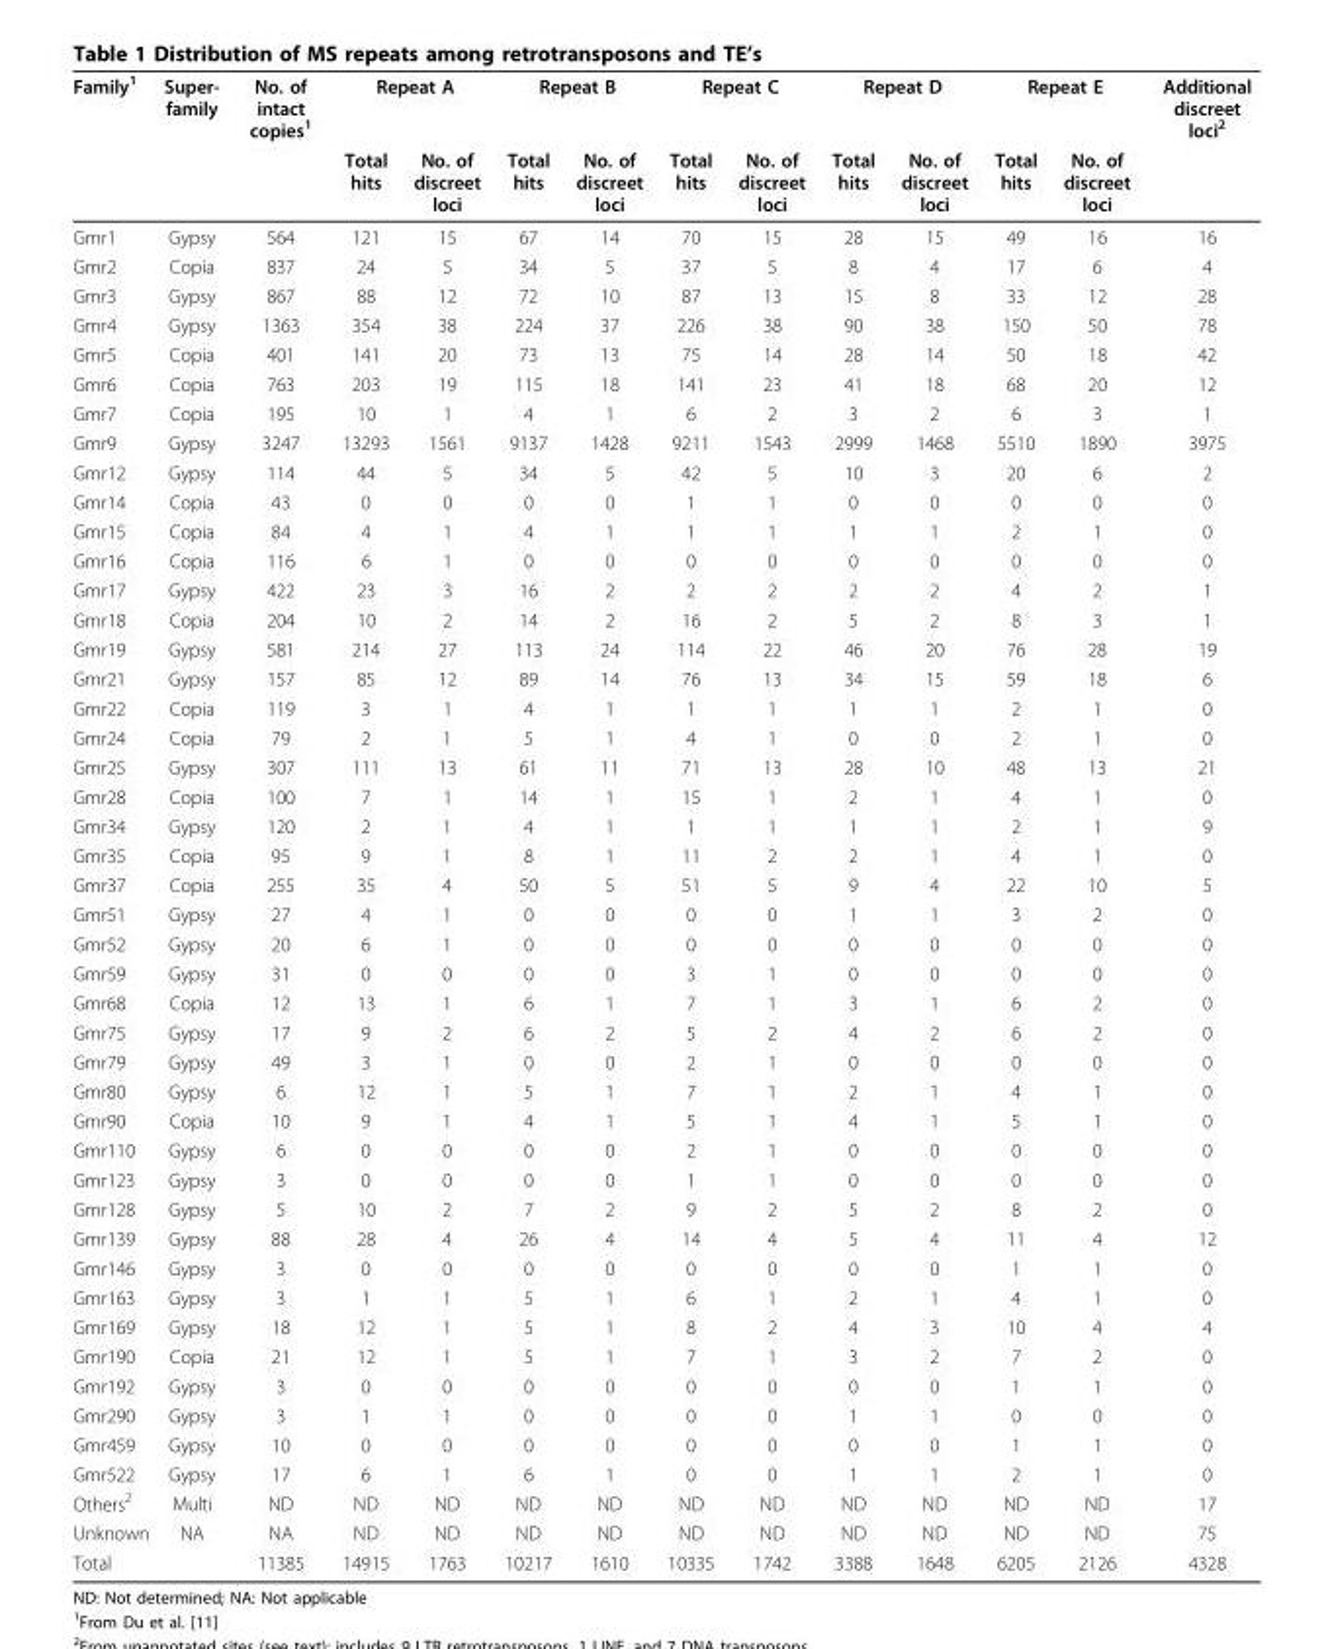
<table><thead><tr><td rowspan="2">Family<sup>1</sup></td><td rowspan="2">Super- family</td><td rowspan="2">No. of intact copies<sup>1</sup></td><td colspan="2">Repeat A</td><td colspan="2">Repeat B</td><td colspan="2">Repeat C</td><td colspan="2">Repeat D</td><td colspan="2">Repeat E</td><td rowspan="2">Additional discreet loci<sup>2</sup></td></tr><tr><td>Total hits</td><td>No. of discreet loci</td><td>Total hits</td><td>No. of discreet loci</td><td>Total hits</td><td>No. of discreet loci</td><td>Total hits</td><td>No. of discreet loci</td><td>Total hits</td><td>No. of discreet loci</td></tr></thead><tbody><tr><td>Gmr1</td><td>Gypsy</td><td>564</td><td>121</td><td>15</td><td>67</td><td>14</td><td>70</td><td>15</td><td>28</td><td>15</td><td>49</td><td>16</td><td>16</td></tr><tr><td>Gmr2</td><td>Copia</td><td>837</td><td>24</td><td>5</td><td>34</td><td>5</td><td>37</td><td>5</td><td>8</td><td>4</td><td>17</td><td>6</td><td>4</td></tr><tr><td>Gmr3</td><td>Gypsy</td><td>867</td><td>88</td><td>12</td><td>72</td><td>10</td><td>87</td><td>13</td><td>15</td><td>8</td><td>33</td><td>12</td><td>28</td></tr><tr><td>Gmr4</td><td>Gypsy</td><td>1363</td><td>354</td><td>38</td><td>224</td><td>37</td><td>226</td><td>38</td><td>90</td><td>38</td><td>150</td><td>50</td><td>78</td></tr><tr><td>Gmr5</td><td>Copia</td><td>401</td><td>141</td><td>20</td><td>73</td><td>13</td><td>75</td><td>14</td><td>28</td><td>14</td><td>50</td><td>18</td><td>42</td></tr><tr><td>Gmr6</td><td>Copia</td><td>763</td><td>203</td><td>19</td><td>115</td><td>18</td><td>141</td><td>23</td><td>41</td><td>18</td><td>68</td><td>20</td><td>12</td></tr><tr><td>Gmr7</td><td>Copia</td><td>195</td><td>10</td><td>1</td><td>4</td><td>1</td><td>6</td><td>2</td><td>3</td><td>2</td><td>6</td><td>3</td><td>1</td></tr><tr><td>Gmr9</td><td>Gypsy</td><td>3247</td><td>13293</td><td>1561</td><td>9137</td><td>1428</td><td>9211</td><td>1543</td><td>2999</td><td>1468</td><td>5510</td><td>1890</td><td>3975</td></tr><tr><td>Gmr12</td><td>Gypsy</td><td>114</td><td>44</td><td>5</td><td>34</td><td>5</td><td>42</td><td>5</td><td>10</td><td>3</td><td>20</td><td>6</td><td>2</td></tr><tr><td>Gmr14</td><td>Copia</td><td>43</td><td>0</td><td>0</td><td>0</td><td>0</td><td>1</td><td>1</td><td>0</td><td>0</td><td>0</td><td>0</td><td>0</td></tr><tr><td>Gmr15</td><td>Copia</td><td>84</td><td>4</td><td>1</td><td>4</td><td>1</td><td>1</td><td>1</td><td>1</td><td>1</td><td>2</td><td>1</td><td>0</td></tr><tr><td>Gmr16</td><td>Copia</td><td>116</td><td>6</td><td>1</td><td>0</td><td>0</td><td>0</td><td>0</td><td>0</td><td>0</td><td>0</td><td>0</td><td>0</td></tr><tr><td>Gmr17</td><td>Gypsy</td><td>422</td><td>23</td><td>3</td><td>16</td><td>2</td><td>2</td><td>2</td><td>2</td><td>2</td><td>4</td><td>2</td><td>1</td></tr><tr><td>Gmr18</td><td>Copia</td><td>204</td><td>10</td><td>2</td><td>14</td><td>2</td><td>16</td><td>2</td><td>5</td><td>2</td><td>8</td><td>3</td><td>1</td></tr><tr><td>Gmr19</td><td>Gypsy</td><td>581</td><td>214</td><td>27</td><td>113</td><td>24</td><td>114</td><td>22</td><td>46</td><td>20</td><td>76</td><td>28</td><td>19</td></tr><tr><td>Gmr21</td><td>Gypsy</td><td>157</td><td>85</td><td>12</td><td>89</td><td>14</td><td>76</td><td>13</td><td>34</td><td>15</td><td>59</td><td>18</td><td>6</td></tr><tr><td>Gmr22</td><td>Copia</td><td>119</td><td>3</td><td>1</td><td>4</td><td>1</td><td>1</td><td>1</td><td>1</td><td>1</td><td>2</td><td>1</td><td>0</td></tr><tr><td>Gmr24</td><td>Copia</td><td>79</td><td>2</td><td>1</td><td>5</td><td>1</td><td>4</td><td>1</td><td>0</td><td>0</td><td>2</td><td>1</td><td>0</td></tr><tr><td>Gmr25</td><td>Gypsy</td><td>307</td><td>111</td><td>13</td><td>61</td><td>11</td><td>71</td><td>13</td><td>28</td><td>10</td><td>48</td><td>13</td><td>21</td></tr><tr><td>Gmr28</td><td>Copia</td><td>100</td><td>7</td><td>1</td><td>14</td><td>1</td><td>15</td><td>1</td><td>2</td><td>1</td><td>4</td><td>1</td><td>0</td></tr><tr><td>Gmr34</td><td>Gypsy</td><td>120</td><td>2</td><td>1</td><td>4</td><td>1</td><td>1</td><td>1</td><td>1</td><td>1</td><td>2</td><td>1</td><td>9</td></tr><tr><td>Gmr35</td><td>Copia</td><td>95</td><td>9</td><td>1</td><td>8</td><td>1</td><td>11</td><td>2</td><td>2</td><td>1</td><td>4</td><td>1</td><td>0</td></tr><tr><td>Gmr37</td><td>Copia</td><td>255</td><td>35</td><td>4</td><td>50</td><td>5</td><td>51</td><td>5</td><td>9</td><td>4</td><td>22</td><td>10</td><td>5</td></tr><tr><td>Gmr51</td><td>Gypsy</td><td>27</td><td>4</td><td>1</td><td>0</td><td>0</td><td>0</td><td>0</td><td>1</td><td>1</td><td>3</td><td>2</td><td>0</td></tr><tr><td>Gmr52</td><td>Gypsy</td><td>20</td><td>6</td><td>1</td><td>0</td><td>0</td><td>0</td><td>0</td><td>0</td><td>0</td><td>0</td><td>0</td><td>0</td></tr><tr><td>Gmr59</td><td>Gypsy</td><td>31</td><td>0</td><td>0</td><td>0</td><td>0</td><td>3</td><td>1</td><td>0</td><td>0</td><td>0</td><td>0</td><td>0</td></tr><tr><td>Gmr68</td><td>Copia</td><td>12</td><td>13</td><td>1</td><td>6</td><td>1</td><td>7</td><td>1</td><td>3</td><td>1</td><td>6</td><td>2</td><td>0</td></tr><tr><td>Gmr75</td><td>Gypsy</td><td>17</td><td>9</td><td>2</td><td>6</td><td>2</td><td>5</td><td>2</td><td>4</td><td>2</td><td>6</td><td>2</td><td>0</td></tr><tr><td>Gmr79</td><td>Gypsy</td><td>49</td><td>3</td><td>1</td><td>0</td><td>0</td><td>2</td><td>1</td><td>0</td><td>0</td><td>0</td><td>0</td><td>0</td></tr><tr><td>Gmr80</td><td>Gypsy</td><td>6</td><td>12</td><td>1</td><td>5</td><td>1</td><td>7</td><td>1</td><td>2</td><td>1</td><td>4</td><td>1</td><td>0</td></tr><tr><td>Gmr90</td><td>Copia</td><td>10</td><td>9</td><td>1</td><td>4</td><td>1</td><td>5</td><td>1</td><td>4</td><td>1</td><td>5</td><td>1</td><td>0</td></tr><tr><td>Gmr110</td><td>Gypsy</td><td>6</td><td>0</td><td>0</td><td>0</td><td>0</td><td>2</td><td>1</td><td>0</td><td>0</td><td>0</td><td>0</td><td>0</td></tr><tr><td>Gmr123</td><td>Gypsy</td><td>3</td><td>0</td><td>0</td><td>0</td><td>0</td><td>1</td><td>1</td><td>0</td><td>0</td><td>0</td><td>0</td><td>0</td></tr><tr><td>Gmr128</td><td>Gypsy</td><td>5</td><td>10</td><td>2</td><td>7</td><td>2</td><td>9</td><td>2</td><td>5</td><td>2</td><td>8</td><td>2</td><td>0</td></tr><tr><td>Gmr139</td><td>Gypsy</td><td>88</td><td>28</td><td>4</td><td>26</td><td>4</td><td>14</td><td>4</td><td>5</td><td>4</td><td>11</td><td>4</td><td>12</td></tr><tr><td>Gmr146</td><td>Gypsy</td><td>3</td><td>0</td><td>0</td><td>0</td><td>0</td><td>0</td><td>0</td><td>0</td><td>0</td><td>1</td><td>1</td><td>0</td></tr><tr><td>Gmr163</td><td>Gypsy</td><td>3</td><td>1</td><td>1</td><td>5</td><td>1</td><td>6</td><td>1</td><td>2</td><td>1</td><td>4</td><td>1</td><td>0</td></tr><tr><td>Gmr169</td><td>Gypsy</td><td>18</td><td>12</td><td>1</td><td>5</td><td>1</td><td>8</td><td>2</td><td>4</td><td>3</td><td>10</td><td>4</td><td>4</td></tr><tr><td>Gmr190</td><td>Copia</td><td>21</td><td>12</td><td>1</td><td>5</td><td>1</td><td>7</td><td>1</td><td>3</td><td>2</td><td>7</td><td>2</td><td>0</td></tr><tr><td>Gmr192</td><td>Gypsy</td><td>3</td><td>0</td><td>0</td><td>0</td><td>0</td><td>0</td><td>0</td><td>0</td><td>0</td><td>1</td><td>1</td><td>0</td></tr><tr><td>Gmr290</td><td>Gypsy</td><td>3</td><td>1</td><td>1</td><td>0</td><td>0</td><td>0</td><td>0</td><td>1</td><td>1</td><td>0</td><td>0</td><td>0</td></tr><tr><td>Gmr459</td><td>Gypsy</td><td>10</td><td>0</td><td>0</td><td>0</td><td>0</td><td>0</td><td>0</td><td>0</td><td>0</td><td>1</td><td>1</td><td>0</td></tr><tr><td>Gmr522</td><td>Gypsy</td><td>17</td><td>6</td><td>1</td><td>6</td><td>1</td><td>0</td><td>0</td><td>1</td><td>1</td><td>2</td><td>1</td><td>0</td></tr><tr><td>Others<sup>2</sup></td><td>Multi</td><td>ND</td><td>ND</td><td>ND</td><td>ND</td><td>ND</td><td>ND</td><td>ND</td><td>ND</td><td>ND</td><td>ND</td><td>ND</td><td>17</td></tr><tr><td>Unknown</td><td>NA</td><td>NA</td><td>ND</td><td>ND</td><td>ND</td><td>ND</td><td>ND</td><td>ND</td><td>ND</td><td>ND</td><td>ND</td><td>ND</td><td>75</td></tr><tr><td>Total</td><td></td><td>11385</td><td>14915</td><td>1763</td><td>10217</td><td>1610</td><td>10335</td><td>1742</td><td>3388</td><td>1648</td><td>6205</td><td>2126</td><td>4328</td></tr></tbody></table>